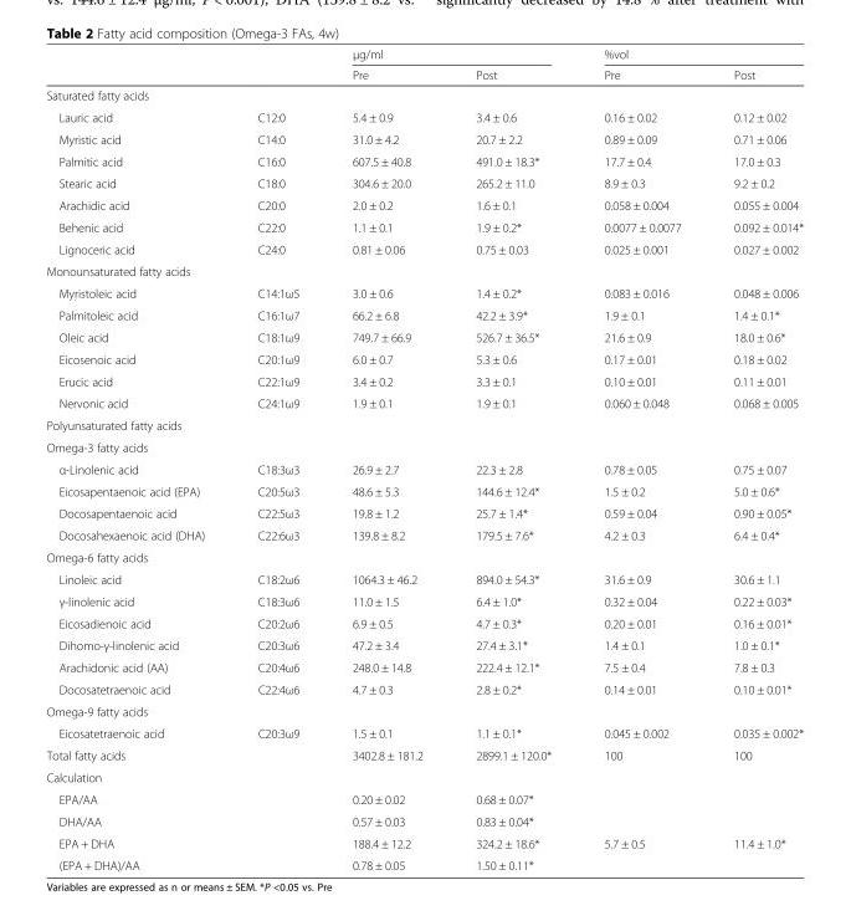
<table><thead><tr><td rowspan="2"></td><td rowspan="2"></td><td colspan="2">μg/ml</td><td colspan="2">%vol</td></tr><tr><td>Pre</td><td>Post</td><td>Pre</td><td>Post</td></tr></thead><tbody><tr><td colspan="6">Saturated fatty acids</td></tr><tr><td>Lauric acid</td><td>C12:0</td><td>5.4 ± 0.9</td><td>3.4 ± 0.6</td><td>0.16 ± 0.02</td><td>0.12 ± 0.02</td></tr><tr><td>Myristic acid</td><td>C14:0</td><td>31.0 ± 4.2</td><td>20.7 ± 2.2</td><td>0.89 ± 0.09</td><td>0.71 ± 0.06</td></tr><tr><td>Palmitic acid</td><td>C16:0</td><td>607.5 ± 40.8</td><td>491.0 ± 18.3*</td><td>17.7 ± 0.4</td><td>17.0 ± 0.3</td></tr><tr><td>Stearic acid</td><td>C18:0</td><td>304.6 ± 20.0</td><td>265.2 ± 11.0</td><td>8.9 ± 0.3</td><td>9.2 ± 0.2</td></tr><tr><td>Arachidic acid</td><td>C20:0</td><td>2.0 ± 0.2</td><td>1.6 ± 0.1</td><td>0.058 ± 0.004</td><td>0.055 ± 0.004</td></tr><tr><td>Behenic acid</td><td>C22:0</td><td>1.1 ± 0.1</td><td>1.9 ± 0.2*</td><td>0.0077 ± 0.0077</td><td>0.092 ± 0.014*</td></tr><tr><td>Lignoceric acid</td><td>C24:0</td><td>0.81 ± 0.06</td><td>0.75 ± 0.03</td><td>0.025 ± 0.001</td><td>0.027 ± 0.002</td></tr><tr><td colspan="6">Monounsaturated fatty acids</td></tr><tr><td>Myristoleic acid</td><td>C14:1ω5</td><td>3.0 ± 0.6</td><td>1.4 ± 0.2*</td><td>0.083 ± 0.016</td><td>0.048 ± 0.006</td></tr><tr><td>Palmitoleic acid</td><td>C16:1ω7</td><td>66.2 ± 6.8</td><td>42.2 ± 3.9*</td><td>1.9 ± 0.1</td><td>1.4 ± 0.1*</td></tr><tr><td>Oleic acid</td><td>C18:1ω9</td><td>749.7 ± 66.9</td><td>526.7 ± 36.5*</td><td>21.6 ± 0.9</td><td>18.0 ± 0.6*</td></tr><tr><td>Eicosenoic acid</td><td>C20:1ω9</td><td>6.0 ± 0.7</td><td>5.3 ± 0.6</td><td>0.17 ± 0.01</td><td>0.18 ± 0.02</td></tr><tr><td>Erucic acid</td><td>C22:1ω9</td><td>3.4 ± 0.2</td><td>3.3 ± 0.1</td><td>0.10 ± 0.01</td><td>0.11 ± 0.01</td></tr><tr><td>Nervonic acid</td><td>C24:1ω9</td><td>1.9 ± 0.1</td><td>1.9 ± 0.1</td><td>0.060 ± 0.048</td><td>0.068 ± 0.005</td></tr><tr><td colspan="6">Polyunsaturated fatty acids</td></tr><tr><td colspan="6">Omega-3 fatty acids</td></tr><tr><td>α-Linolenic acid</td><td>C18:3ω3</td><td>26.9 ± 2.7</td><td>22.3 ± 2.8</td><td>0.78 ± 0.05</td><td>0.75 ± 0.07</td></tr><tr><td>Eicosapentaenoic acid (EPA)</td><td>C20:5ω3</td><td>48.6 ± 5.3</td><td>144.6 ± 12.4*</td><td>1.5 ± 0.2</td><td>5.0 ± 0.6*</td></tr><tr><td>Docosapentaenoic acid</td><td>C22:5ω3</td><td>19.8 ± 1.2</td><td>25.7 ± 1.4*</td><td>0.59 ± 0.04</td><td>0.90 ± 0.05*</td></tr><tr><td>Docosahexaenoic acid (DHA)</td><td>C22:6ω3</td><td>139.8 ± 8.2</td><td>179.5 ± 7.6*</td><td>4.2 ± 0.3</td><td>6.4 ± 0.4*</td></tr><tr><td colspan="6">Omega-6 fatty acids</td></tr><tr><td>Linoleic acid</td><td>C18:2ω6</td><td>1064.3 ± 46.2</td><td>894.0 ± 54.3*</td><td>31.6 ± 0.9</td><td>30.6 ± 1.1</td></tr><tr><td>γ-linolenic acid</td><td>C18:3ω6</td><td>11.0 ± 1.5</td><td>6.4 ± 1.0*</td><td>0.32 ± 0.04</td><td>0.22 ± 0.03*</td></tr><tr><td>Eicosadienoic acid</td><td>C20:2ω6</td><td>6.9 ± 0.5</td><td>4.7 ± 0.3*</td><td>0.20 ± 0.01</td><td>0.16 ± 0.01*</td></tr><tr><td>Dihomo-γ-linolenic acid</td><td>C20:3ω6</td><td>47.2 ± 3.4</td><td>27.4 ± 3.1*</td><td>1.4 ± 0.1</td><td>1.0 ± 0.1*</td></tr><tr><td>Arachidonic acid (AA)</td><td>C20:4ω6</td><td>248.0 ± 14.8</td><td>222.4 ± 12.1*</td><td>7.5 ± 0.4</td><td>7.8 ± 0.3</td></tr><tr><td>Docosatetraenoic acid</td><td>C22:4ω6</td><td>4.7 ± 0.3</td><td>2.8 ± 0.2*</td><td>0.14 ± 0.01</td><td>0.10 ± 0.01*</td></tr><tr><td colspan="6">Omega-9 fatty acids</td></tr><tr><td>Eicosatetraenoic acid</td><td>C20:3ω9</td><td>1.5 ± 0.1</td><td>1.1 ± 0.1*</td><td>0.045 ± 0.002</td><td>0.035 ± 0.002*</td></tr><tr><td>Total fatty acids</td><td></td><td>3402.8 ± 181.2</td><td>2899.1 ± 120.0*</td><td>100</td><td>100</td></tr><tr><td colspan="6">Calculation</td></tr><tr><td>EPA/AA</td><td></td><td>0.20 ± 0.02</td><td>0.68 ± 0.07*</td><td></td><td></td></tr><tr><td>DHA/AA</td><td></td><td>0.57 ± 0.03</td><td>0.83 ± 0.04*</td><td></td><td></td></tr><tr><td>EPA + DHA</td><td></td><td>188.4 ± 12.2</td><td>324.2 ± 18.6*</td><td>5.7 ± 0.5</td><td>11.4 ± 1.0*</td></tr><tr><td>(EPA + DHA)/AA</td><td></td><td>0.78 ± 0.05</td><td>1.50 ± 0.11*</td><td></td><td></td></tr></tbody></table>